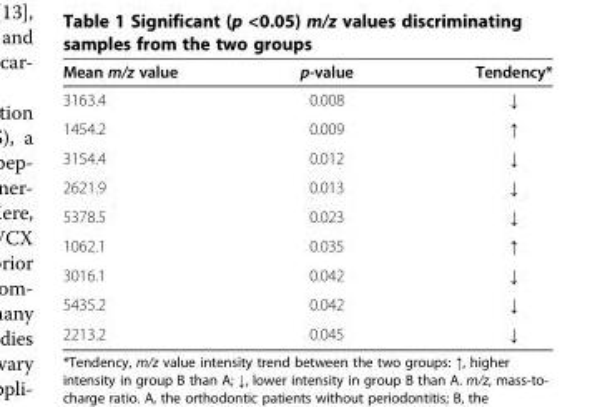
<table><thead><tr><td>Mean m/z value</td><td>p-value</td><td>Tendency*</td></tr></thead><tbody><tr><td>3163.4</td><td>0.008</td><td>↓</td></tr><tr><td>1454.2</td><td>0.009</td><td>↑</td></tr><tr><td>3154.4</td><td>0.012</td><td>↓</td></tr><tr><td>2621.9</td><td>0.013</td><td>↓</td></tr><tr><td>5378.5</td><td>0.023</td><td>↓</td></tr><tr><td>1062.1</td><td>0.035</td><td>↑</td></tr><tr><td>3016.1</td><td>0.042</td><td>↓</td></tr><tr><td>5435.2</td><td>0.042</td><td>↓</td></tr><tr><td>2213.2</td><td>0.045</td><td>↓</td></tr></tbody></table>